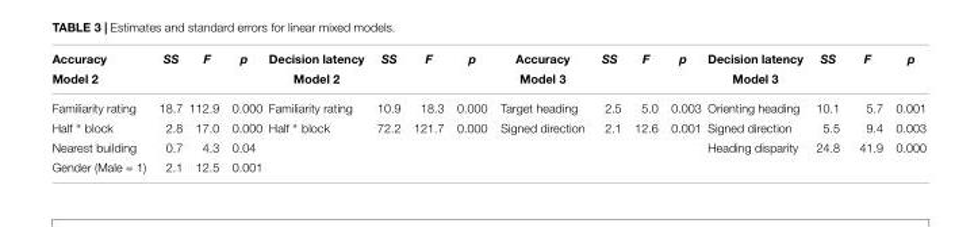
<table><thead><tr><td rowspan="2">Accuracy Model 2</td><td rowspan="2">SS</td><td rowspan="2">F</td><td rowspan="2">p</td><td rowspan="2">Decision latency Model 2</td><td rowspan="2">SS</td><td rowspan="2">F</td><td rowspan="2">p</td><td rowspan="2">Accuracy Model 3</td><td rowspan="2">SS</td><td rowspan="2">F</td><td rowspan="2">p</td><td rowspan="2">Decision latency Model 3</td><td rowspan="2">SS</td><td rowspan="2">F</td><td rowspan="2">p</td></tr><tr></tr></thead><tbody><tr><td>Familiarity rating</td><td>18.7</td><td>112.9</td><td>0.000</td><td>Familiarity rating</td><td>10.9</td><td>18.3</td><td>0.000</td><td>Target heading</td><td>2.5</td><td>5.0</td><td>0.003</td><td>Orienting heading</td><td>10.1</td><td>5.7</td><td>0.001</td></tr><tr><td>Half ∗ block</td><td>2.8</td><td>17.0</td><td>0.000</td><td>Half ∗ block</td><td>72.2</td><td>121.7</td><td>0.000</td><td>Signed direction</td><td>2.1</td><td>12.6</td><td>0.001</td><td>Signed direction</td><td>5.5</td><td>9.4</td><td>0.003</td></tr><tr><td>Nearest building</td><td>0.7</td><td>4.3</td><td>0.04</td><td></td><td></td><td></td><td></td><td></td><td></td><td></td><td></td><td>Heading disparity</td><td>24.8</td><td>41.9</td><td>0.000</td></tr><tr><td>Gender (Male = 1)</td><td>2.1</td><td>12.5</td><td>0.001</td><td></td><td></td><td></td><td></td><td></td><td></td><td></td><td></td><td></td><td></td><td></td><td></td></tr></tbody></table>